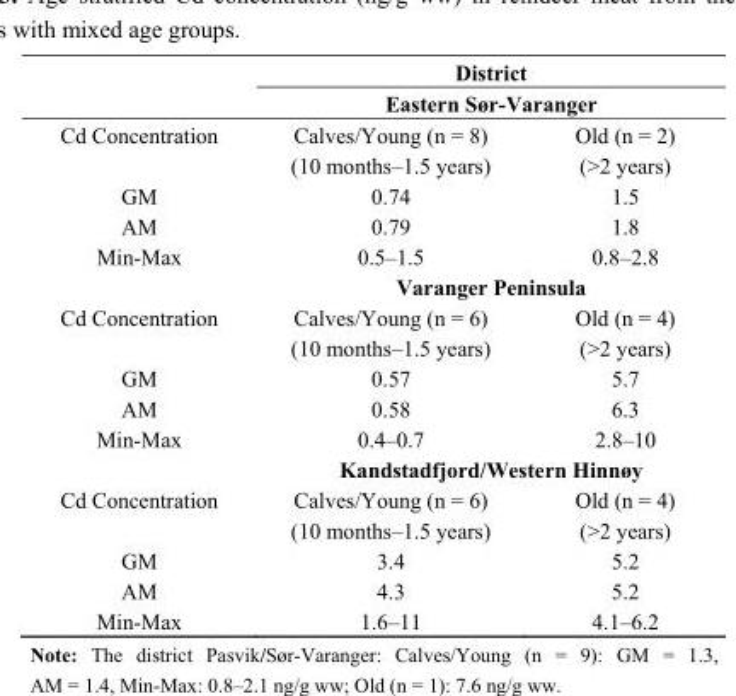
<table><thead><tr><td rowspan="3">Cd Concentration</td><td rowspan="2" colspan="2">District Eastern Sør-Varanger</td></tr><tr></tr><tr><td>Calves/Young (n = 8) (10 months–1.5 years)</td><td>Old (n = 2) (&gt;2 years)</td></tr></thead><tbody><tr><td>GM</td><td>0.74</td><td>1.5</td></tr><tr><td>AM</td><td>0.79</td><td>1.8</td></tr><tr><td rowspan="2">Min-Max</td><td>0.5–1.5</td><td>0.8–2.8</td></tr><tr><td colspan="2">Varanger Peninsula</td></tr><tr><td>Cd Concentration</td><td>Calves/Young (n = 6) (10 months–1.5 years)</td><td>Old (n = 4) (&gt;2 years)</td></tr><tr><td>GM</td><td>0.57</td><td>5.7</td></tr><tr><td>AM</td><td>0.58</td><td>6.3</td></tr><tr><td rowspan="2">Min-Max</td><td>0.4–0.7</td><td>2.8–10</td></tr><tr><td colspan="2">Kandstadfjord/Western Hinnøy</td></tr><tr><td>Cd Concentration</td><td>Calves/Young (n = 6) (10 months–1.5 years)</td><td>Old (n = 4) (&gt;2 years)</td></tr><tr><td>GM</td><td>3.4</td><td>5.2</td></tr><tr><td>AM</td><td>4.3</td><td>5.2</td></tr><tr><td>Min-Max</td><td>1.6–11</td><td>4.1–6.2</td></tr></tbody></table>